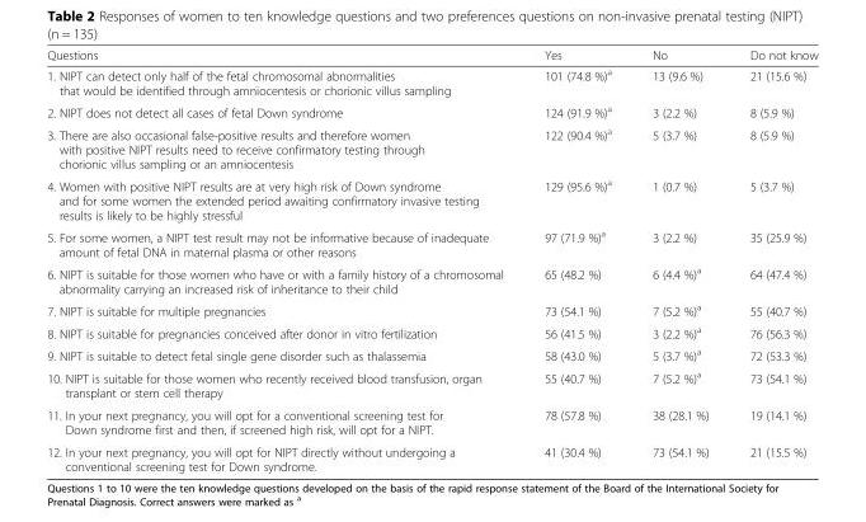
<table><thead><tr><td>Questions</td><td>Yes</td><td>No</td><td>Do not know</td></tr></thead><tbody><tr><td>1. NIPT can detect only half of the fetal chromosomal abnormalities that would be identified through amniocentesis or chorionic villus sampling</td><td>101 (74.8 %)<sup>a</sup></td><td>13 (9.6 %)</td><td>21 (15.6 %)</td></tr><tr><td>2. NIPT does not detect all cases of fetal Down syndrome</td><td>124 (91.9 %)<sup>a</sup></td><td>3 (2.2 %)</td><td>8 (5.9 %)</td></tr><tr><td>3. There are also occasional false-positive results and therefore women with positive NIPT results need to receive confirmatory testing through chorionic villus sampling or an amniocentesis</td><td>122 (90.4 %)<sup>a</sup></td><td>5 (3.7 %)</td><td>8 (5.9 %)</td></tr><tr><td>4. Women with positive NIPT results are at very high risk of Down syndrome and for some women the extended period awaiting confirmatory invasive testing results is likely to be highly stressful</td><td>129 (95.6 %)<sup>a</sup></td><td>1 (0.7 %)</td><td>5 (3.7 %)</td></tr><tr><td>5. For some women, a NIPT test result may not be informative because of inadequate amount of fetal DNA in maternal plasma or other reasons</td><td>97 (71.9 %)<sup>a</sup></td><td>3 (2.2 %)</td><td>35 (25.9 %)</td></tr><tr><td>6. NIPT is suitable for those women who have or with a family history of a chromosomal abnormality carrying an increased risk of inheritance to their child</td><td>65 (48.2 %)</td><td>6 (4.4 %)<sup>a</sup></td><td>64 (47.4 %)</td></tr><tr><td>7. NIPT is suitable for multiple pregnancies</td><td>73 (54.1 %)</td><td>7 (5.2 %)<sup>a</sup></td><td>55 (40.7 %)</td></tr><tr><td>8. NIPT is suitable for pregnancies conceived after donor in vitro fertilization</td><td>56 (41.5 %)</td><td>3 (2.2 %)<sup>a</sup></td><td>76 (56.3 %)</td></tr><tr><td>9. NIPT is suitable to detect fetal single gene disorder such as thalassemia</td><td>58 (43.0 %)</td><td>5 (3.7 %)<sup>a</sup></td><td>72 (53.3 %)</td></tr><tr><td>10. NIPT is suitable for those women who recently received blood transfusion, organ transplant or stem cell therapy</td><td>55 (40.7 %)</td><td>7 (5.2 %)<sup>a</sup></td><td>73 (54.1 %)</td></tr><tr><td>11. In your next pregnancy, you will opt for a conventional screening test for Down syndrome first and then, if screened high risk, will opt for a NIPT.</td><td>78 (57.8 %)</td><td>38 (28.1 %)</td><td>19 (14.1 %)</td></tr><tr><td>12. In your next pregnancy, you will opt for NIPT directly without undergoing a conventional screening test for Down syndrome.</td><td>41 (30.4 %)</td><td>73 (54.1 %)</td><td>21 (15.5 %)</td></tr></tbody></table>